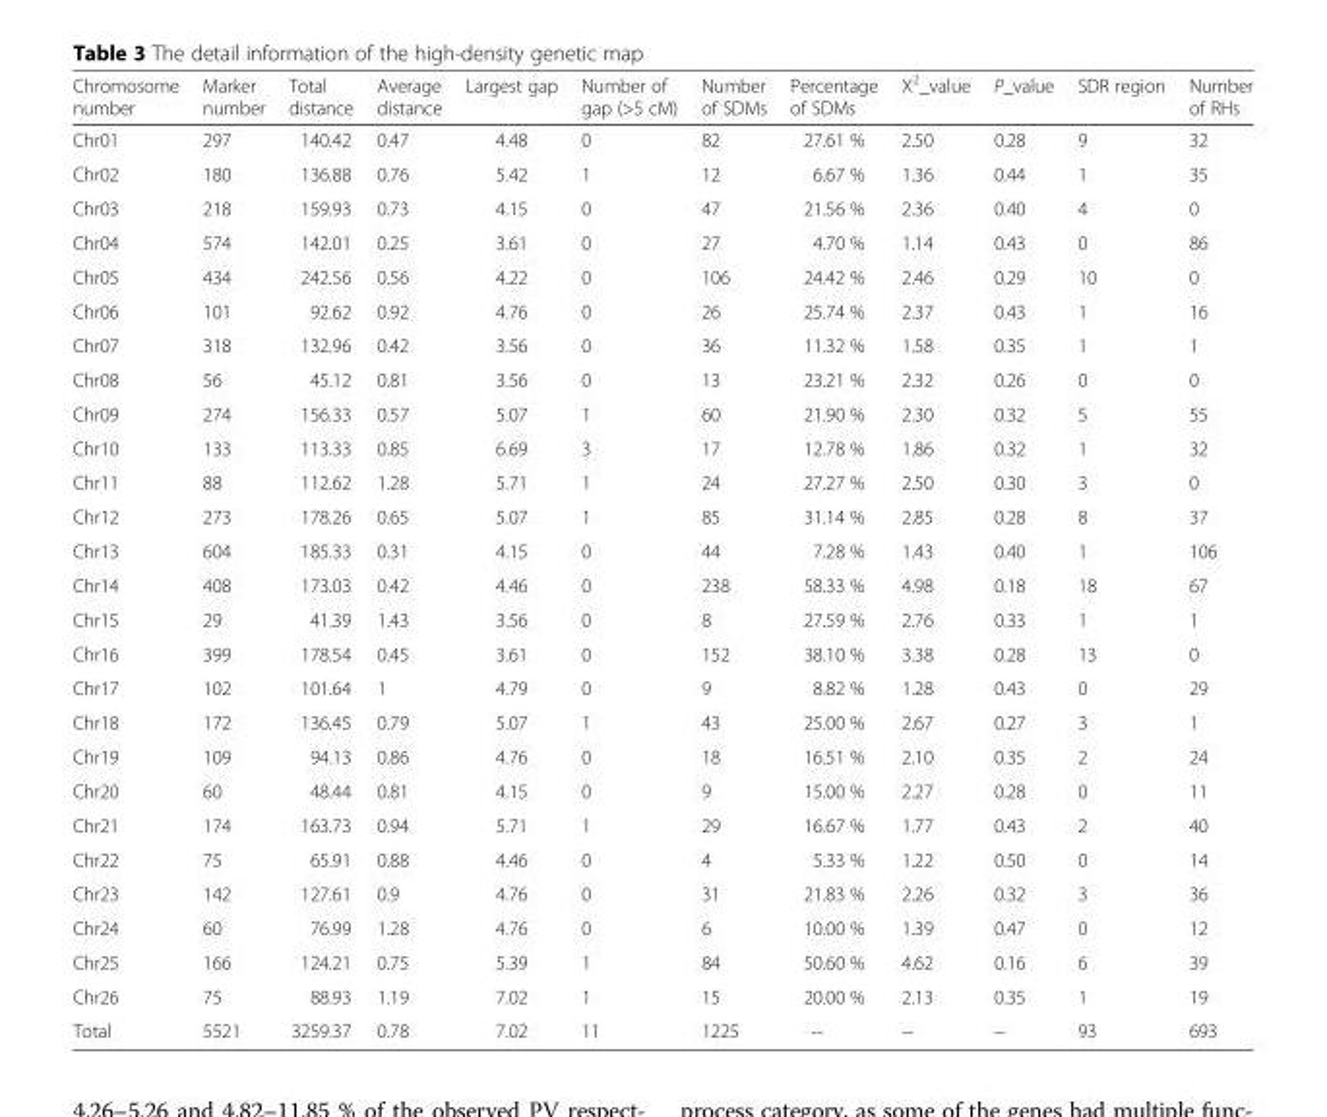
<table><thead><tr><td>Chromosome number</td><td>Marker number</td><td>Total distance</td><td>Average distance</td><td>Largest gap</td><td>Number of gap (&gt;5 cM)</td><td>Number of SDMs</td><td>Percentage of SDMs</td><td>X<sup>2</sup>_value</td><td>P_value</td><td>SDR region</td><td>Number of RHs</td></tr></thead><tbody><tr><td>Chr01</td><td>297</td><td>140.42</td><td>0.47</td><td>4.48</td><td>0</td><td>82</td><td>27.61 %</td><td>2.50</td><td>0.28</td><td>9</td><td>32</td></tr><tr><td>Chr02</td><td>180</td><td>136.88</td><td>0.76</td><td>5.42</td><td>1</td><td>12</td><td>6.67 %</td><td>1.36</td><td>0.44</td><td>1</td><td>35</td></tr><tr><td>Chr03</td><td>218</td><td>159.93</td><td>0.73</td><td>4.15</td><td>0</td><td>47</td><td>21.56 %</td><td>2.36</td><td>0.40</td><td>4</td><td>0</td></tr><tr><td>Chr04</td><td>574</td><td>142.01</td><td>0.25</td><td>3.61</td><td>0</td><td>27</td><td>4.70 %</td><td>1.14</td><td>0.43</td><td>0</td><td>86</td></tr><tr><td>Chr05</td><td>434</td><td>242.56</td><td>0.56</td><td>4.22</td><td>0</td><td>106</td><td>24.42 %</td><td>2.46</td><td>0.29</td><td>10</td><td>0</td></tr><tr><td>Chr06</td><td>101</td><td>92.62</td><td>0.92</td><td>4.76</td><td>0</td><td>26</td><td>25.74 %</td><td>2.37</td><td>0.43</td><td>1</td><td>16</td></tr><tr><td>Chr07</td><td>318</td><td>132.96</td><td>0.42</td><td>3.56</td><td>0</td><td>36</td><td>11.32 %</td><td>1.58</td><td>0.35</td><td>1</td><td>1</td></tr><tr><td>Chr08</td><td>56</td><td>45.12</td><td>0.81</td><td>3.56</td><td>0</td><td>13</td><td>23.21 %</td><td>2.32</td><td>0.26</td><td>0</td><td>0</td></tr><tr><td>Chr09</td><td>274</td><td>156.33</td><td>0.57</td><td>5.07</td><td>1</td><td>60</td><td>21.90 %</td><td>2.30</td><td>0.32</td><td>5</td><td>55</td></tr><tr><td>Chr10</td><td>133</td><td>113.33</td><td>0.85</td><td>6.69</td><td>3</td><td>17</td><td>12.78 %</td><td>1.86</td><td>0.32</td><td>1</td><td>32</td></tr><tr><td>Chr11</td><td>88</td><td>112.62</td><td>1.28</td><td>5.71</td><td>1</td><td>24</td><td>27.27 %</td><td>2.50</td><td>0.30</td><td>3</td><td>0</td></tr><tr><td>Chr12</td><td>273</td><td>178.26</td><td>0.65</td><td>5.07</td><td>1</td><td>85</td><td>31.14 %</td><td>2.85</td><td>0.28</td><td>8</td><td>37</td></tr><tr><td>Chr13</td><td>604</td><td>185.33</td><td>0.31</td><td>4.15</td><td>0</td><td>44</td><td>7.28 %</td><td>1.43</td><td>0.40</td><td>1</td><td>106</td></tr><tr><td>Chr14</td><td>408</td><td>173.03</td><td>0.42</td><td>4.46</td><td>0</td><td>238</td><td>58.33 %</td><td>4.98</td><td>0.18</td><td>18</td><td>67</td></tr><tr><td>Chr15</td><td>29</td><td>41.39</td><td>1.43</td><td>3.56</td><td>0</td><td>8</td><td>27.59 %</td><td>2.76</td><td>0.33</td><td>1</td><td>1</td></tr><tr><td>Chr16</td><td>399</td><td>178.54</td><td>0.45</td><td>3.61</td><td>0</td><td>152</td><td>38.10 %</td><td>3.38</td><td>0.28</td><td>13</td><td>0</td></tr><tr><td>Chr17</td><td>102</td><td>101.64</td><td>1</td><td>4.79</td><td>0</td><td>9</td><td>8.82 %</td><td>1.28</td><td>0.43</td><td>0</td><td>29</td></tr><tr><td>Chr18</td><td>172</td><td>136.45</td><td>0.79</td><td>5.07</td><td>1</td><td>43</td><td>25.00 %</td><td>2.67</td><td>0.27</td><td>3</td><td>1</td></tr><tr><td>Chr19</td><td>109</td><td>94.13</td><td>0.86</td><td>4.76</td><td>0</td><td>18</td><td>16.51 %</td><td>2.10</td><td>0.35</td><td>2</td><td>24</td></tr><tr><td>Chr20</td><td>60</td><td>48.44</td><td>0.81</td><td>4.15</td><td>0</td><td>9</td><td>15.00 %</td><td>2.27</td><td>0.28</td><td>0</td><td>11</td></tr><tr><td>Chr21</td><td>174</td><td>163.73</td><td>0.94</td><td>5.71</td><td>1</td><td>29</td><td>16.67 %</td><td>1.77</td><td>0.43</td><td>2</td><td>40</td></tr><tr><td>Chr22</td><td>75</td><td>65.91</td><td>0.88</td><td>4.46</td><td>0</td><td>4</td><td>5.33 %</td><td>1.22</td><td>0.50</td><td>0</td><td>14</td></tr><tr><td>Chr23</td><td>142</td><td>127.61</td><td>0.9</td><td>4.76</td><td>0</td><td>31</td><td>21.83 %</td><td>2.26</td><td>0.32</td><td>3</td><td>36</td></tr><tr><td>Chr24</td><td>60</td><td>76.99</td><td>1.28</td><td>4.76</td><td>0</td><td>6</td><td>10.00 %</td><td>1.39</td><td>0.47</td><td>0</td><td>12</td></tr><tr><td>Chr25</td><td>166</td><td>124.21</td><td>0.75</td><td>5.39</td><td>1</td><td>84</td><td>50.60 %</td><td>4.62</td><td>0.16</td><td>6</td><td>39</td></tr><tr><td>Chr26</td><td>75</td><td>88.93</td><td>1.19</td><td>7.02</td><td>1</td><td>15</td><td>20.00 %</td><td>2.13</td><td>0.35</td><td>1</td><td>19</td></tr><tr><td>Total</td><td>5521</td><td>3259.37</td><td>0.78</td><td>7.02</td><td>11</td><td>1225</td><td>--</td><td>--</td><td>--</td><td>93</td><td>693</td></tr></tbody></table>